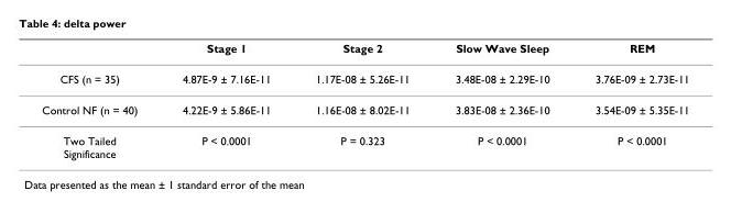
<table><thead><tr><td></td><td>Stage 1</td><td>Stage 2</td><td>Slow Wave Sleep</td><td>REM</td></tr></thead><tbody><tr><td>CFS (n = 35)</td><td>4.87E-9 ± 7.16E-11</td><td>1.17E-08 ± 5.26E-11</td><td>3.48E-08 ± 2.29E-10</td><td>3.76E-09 ± 2.73E-11</td></tr><tr><td>Control NF (n = 40)</td><td>4.22E-9 ± 5.86E-11</td><td>1.16E-08 ± 8.02E-11</td><td>3.83E-08 ± 2.36E-10</td><td>3.54E-09 ± 5.35E-11</td></tr><tr><td>Two Tailed Significance</td><td>P &lt; 0.0001</td><td>P = 0.323</td><td>P &lt; 0.0001</td><td>P &lt; 0.0001</td></tr></tbody></table>